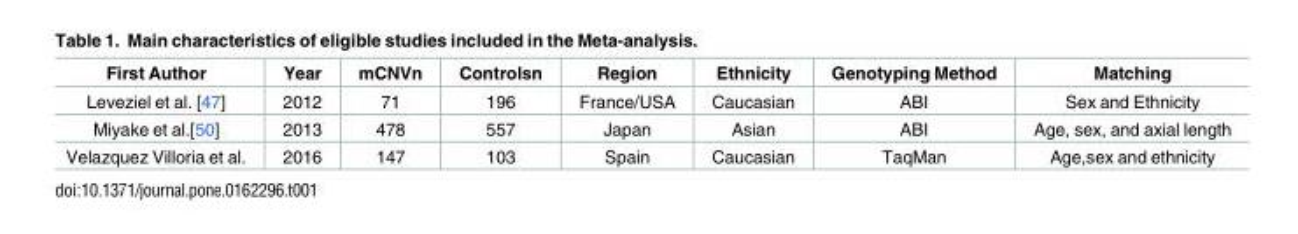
<table><thead><tr><td>First Author</td><td>Year</td><td>mCNVn</td><td>Controlsn</td><td>Region</td><td>Ethnicity</td><td>Genotyping Method</td><td>Matching</td></tr></thead><tbody><tr><td>Leveziel et al. [47]</td><td>2012</td><td>71</td><td>196</td><td>France/USA</td><td>Caucasian</td><td>ABI</td><td>Sex and Ethnicity</td></tr><tr><td>Miyake et al.[50]</td><td>2013</td><td>478</td><td>557</td><td>Japan</td><td>Asian</td><td>ABI</td><td>Age, sex, and axial length</td></tr><tr><td>Velazquez Villoria et al.</td><td>2016</td><td>147</td><td>103</td><td>Spain</td><td>Caucasian</td><td>TaqMan</td><td>Age,sex and ethnicity</td></tr></tbody></table>